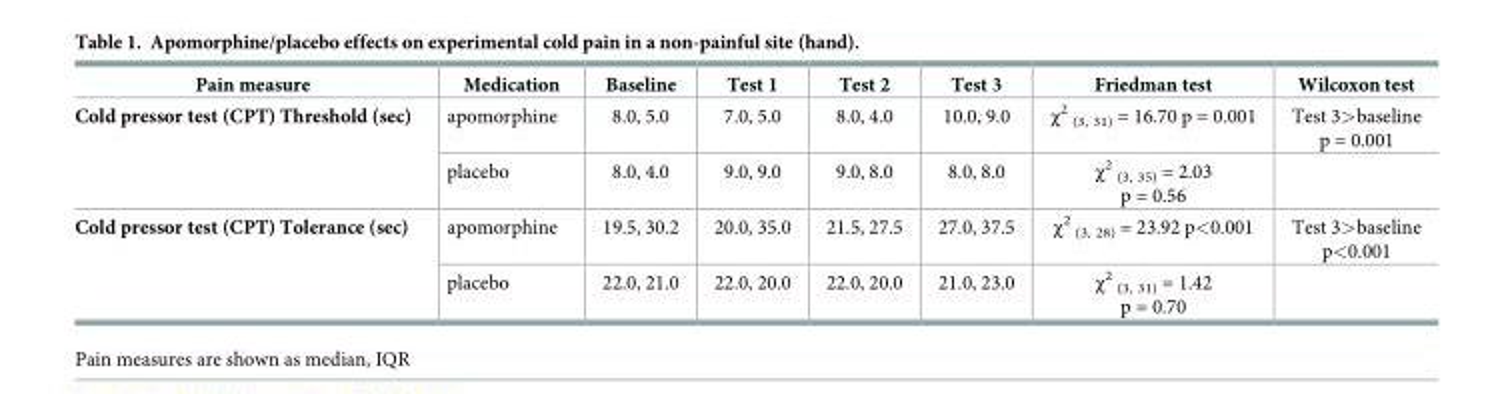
<table><thead><tr><td>Pain measure</td><td>Medication</td><td>Baseline</td><td>Test 1</td><td>Test 2</td><td>Test 3</td><td>Friedman test</td><td>Wilcoxon test</td></tr></thead><tbody><tr><td rowspan="2">Cold pressor test (CPT) Threshold (sec)</td><td>apomorphine</td><td>8.0, 5.0</td><td>7.0, 5.0</td><td>8.0, 4.0</td><td>10.0, 9.0</td><td>χ<sup>2</sup> <sub>(3, 31)</sub> = 16.70 p = 0.001</td><td>Test 3&gt;baseline p = 0.001</td></tr><tr><td>placebo</td><td>8.0, 4.0</td><td>9.0, 9.0</td><td>9.0, 8.0</td><td>8.0, 8.0</td><td>χ<sup>2</sup> <sub>(3, 35)</sub> = 2.03 p = 0.56</td><td></td></tr><tr><td rowspan="2">Cold pressor test (CPT) Tolerance (sec)</td><td>apomorphine</td><td>19.5, 30.2</td><td>20.0, 35.0</td><td>21.5, 27.5</td><td>27.0, 37.5</td><td>χ<sup>2</sup> <sub>(3, 28)</sub> = 23.92 p&lt;0.001</td><td>Test 3&gt;baseline p&lt;0.001</td></tr><tr><td>placebo</td><td>22.0, 21.0</td><td>22.0, 20.0</td><td>22.0, 20.0</td><td>21.0, 23.0</td><td>χ<sup>2</sup> <sub>(3, 31)</sub> = 1.42 p = 0.70</td><td></td></tr></tbody></table>